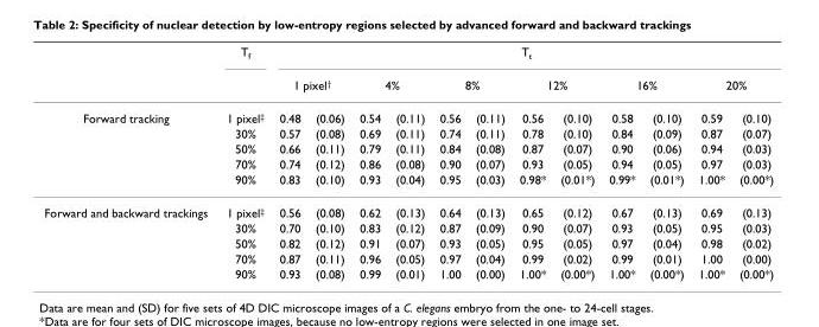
<table><thead><tr><td rowspan="3">Forward tracking</td><td rowspan="3">Tf 1 pixel‡</td><td colspan="12">Tt</td></tr><tr><td colspan="2">1 pixel†</td><td colspan="2">4%</td><td colspan="2">8%</td><td colspan="2">12%</td><td colspan="2">16%</td><td colspan="2">20%</td></tr><tr><td>0.48</td><td>(0.06)</td><td>0.54</td><td>(0.11)</td><td>0.56</td><td>(0.11)</td><td>0.56</td><td>(0.10)</td><td>0.58</td><td>(0.10)</td><td>0.59</td><td>(0.10)</td></tr></thead><tbody><tr><td></td><td>30%</td><td>0.57</td><td>(0.08)</td><td>0.69</td><td>(0.11)</td><td>0.74</td><td>(0.11)</td><td>0.78</td><td>(0.10)</td><td>0.84</td><td>(0.09)</td><td>0.87</td><td>(0.07)</td></tr><tr><td></td><td>50%</td><td>0.66</td><td>(0.11)</td><td>0.79</td><td>(0.11)</td><td>0.84</td><td>(0.08)</td><td>0.87</td><td>(0.07)</td><td>0.90</td><td>(0.06)</td><td>0.94</td><td>(0.03)</td></tr><tr><td></td><td>70%</td><td>0.74</td><td>(0.12)</td><td>0.86</td><td>(0.08)</td><td>0.90</td><td>(0.07)</td><td>0.93</td><td>(0.05)</td><td>0.94</td><td>(0.05)</td><td>0.97</td><td>(0.03)</td></tr><tr><td></td><td>90%</td><td>0.83</td><td>(0.10)</td><td>0.93</td><td>(0.04)</td><td>0.95</td><td>(0.03)</td><td>0.98*</td><td>(0.01*)</td><td>0.99*</td><td>(0.01*)</td><td>1.00*</td><td>(0.00*)</td></tr><tr><td rowspan="5">Forward and backward trackings</td><td>1 pixel‡</td><td>0.56</td><td>(0.08)</td><td>0.62</td><td>(0.13)</td><td>0.64</td><td>(0.13)</td><td>0.65</td><td>(0.12)</td><td>0.67</td><td>(0.13)</td><td>0.69</td><td>(0.13)</td></tr><tr><td>30%</td><td>0.70</td><td>(0.10)</td><td>0.83</td><td>(0.12)</td><td>0.87</td><td>(0.09)</td><td>0.90</td><td>(0.07)</td><td>0.93</td><td>(0.05)</td><td>0.95</td><td>(0.03)</td></tr><tr><td>50%</td><td>0.82</td><td>(0.12)</td><td>0.91</td><td>(0.07)</td><td>0.93</td><td>(0.05)</td><td>0.95</td><td>(0.05)</td><td>0.97</td><td>(0.04)</td><td>0.98</td><td>(0.02)</td></tr><tr><td>70%</td><td>0.87</td><td>(0.11)</td><td>0.96</td><td>(0.05)</td><td>0.97</td><td>(0.04)</td><td>0.99</td><td>(0.02)</td><td>0.99</td><td>(0.01)</td><td>1.00</td><td>(0.00)</td></tr><tr><td>90%</td><td>0.93</td><td>(0.08)</td><td>0.99</td><td>(0.01)</td><td>1.00</td><td>(0.00)</td><td>1.00*</td><td>(0.00*)</td><td>1.00*</td><td>(0.00*)</td><td>1.00*</td><td>(0.00*)</td></tr></tbody></table>